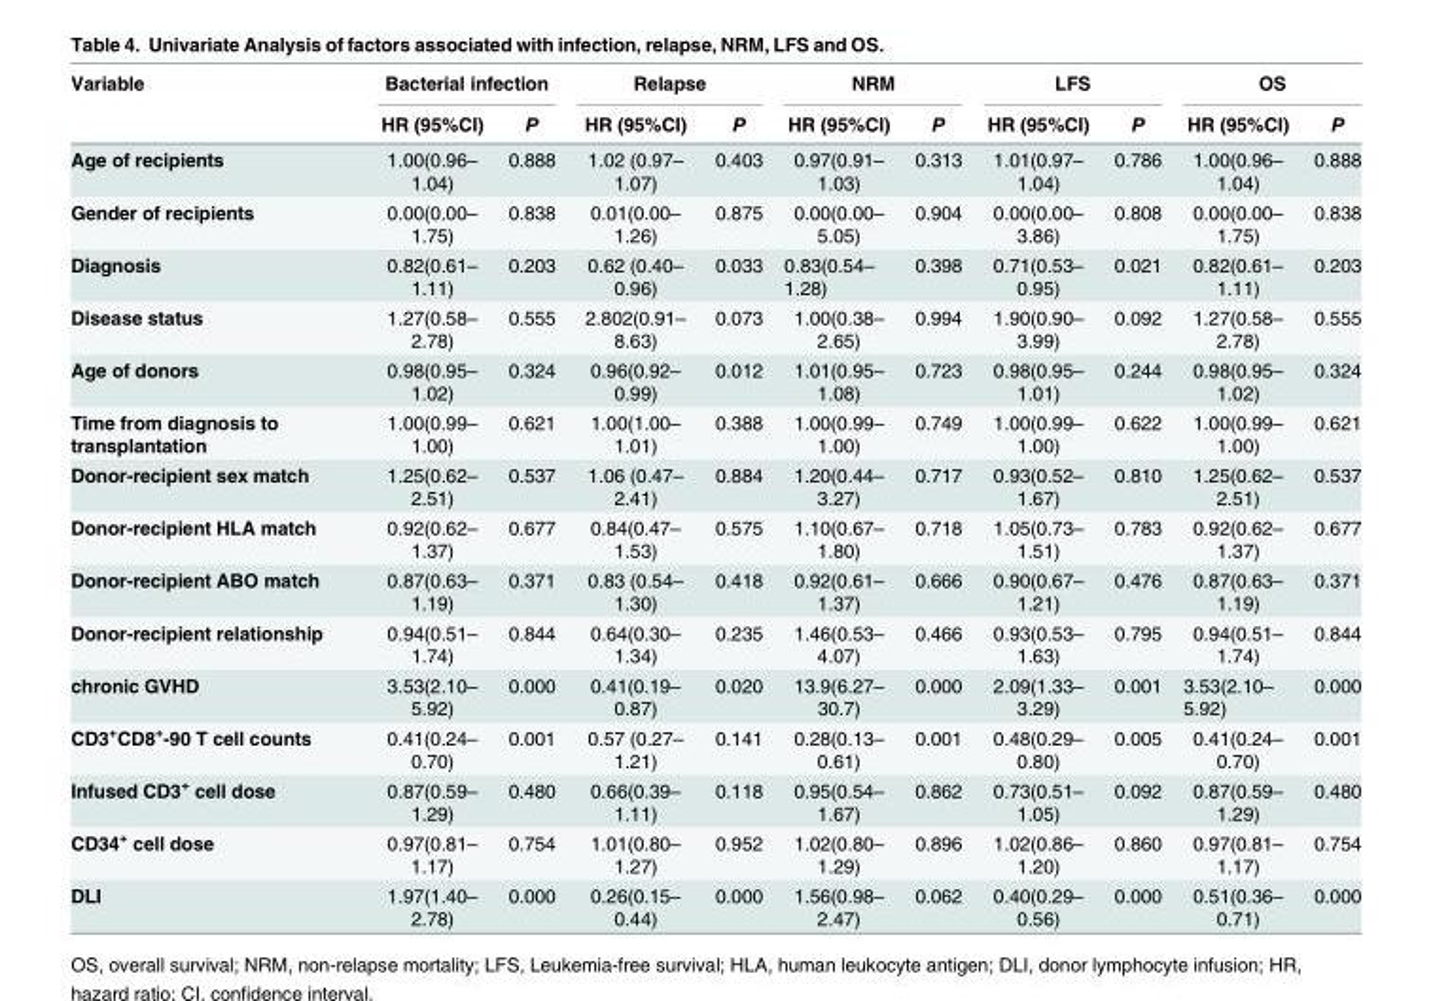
<table><thead><tr><td rowspan="2">Variable</td><td colspan="2">Bacterial infection</td><td colspan="2">Relapse</td><td colspan="2">NRM</td><td colspan="2">LFS</td><td colspan="2">OS</td></tr><tr><td>HR (95%CI)</td><td>P</td><td>HR (95%CI)</td><td>P</td><td>HR (95%CI)</td><td>P</td><td>HR (95%CI)</td><td>P</td><td>HR (95%CI)</td><td>P</td></tr></thead><tbody><tr><td>Age of recipients</td><td>1.00(0.96– 1.04)</td><td>0.888</td><td>1.02 (0.97– 1.07)</td><td>0.403</td><td>0.97(0.91– 1.03)</td><td>0.313</td><td>1.01(0.97– 1.04)</td><td>0.786</td><td>1.00(0.96– 1.04)</td><td>0.888</td></tr><tr><td>Gender of recipients</td><td>0.00(0.00– 1.75)</td><td>0.838</td><td>0.01(0.00– 1.26)</td><td>0.875</td><td>0.00(0.00– 5.05)</td><td>0.904</td><td>0.00(0.00– 3.86)</td><td>0.808</td><td>0.00(0.00– 1.75)</td><td>0.838</td></tr><tr><td>Diagnosis</td><td>0.82(0.61– 1.11)</td><td>0.203</td><td>0.62 (0.40– 0.96)</td><td>0.033</td><td>0.83(0.54– 1.28)</td><td>0.398</td><td>0.71(0.53– 0.95)</td><td>0.021</td><td>0.82(0.61– 1.11)</td><td>0.203</td></tr><tr><td>Disease status</td><td>1.27(0.58– 2.78)</td><td>0.555</td><td>2.802(0.91– 8.63)</td><td>0.073</td><td>1.00(0.38– 2.65)</td><td>0.994</td><td>1.90(0.90– 3.99)</td><td>0.092</td><td>1.27(0.58– 2.78)</td><td>0.555</td></tr><tr><td>Age of donors</td><td>0.98(0.95– 1.02)</td><td>0.324</td><td>0.96(0.92– 0.99)</td><td>0.012</td><td>1.01(0.95– 1.08)</td><td>0.723</td><td>0.98(0.95– 1.01)</td><td>0.244</td><td>0.98(0.95– 1.02)</td><td>0.324</td></tr><tr><td>Time from diagnosis to transplantation</td><td>1.00(0.99– 1.00)</td><td>0.621</td><td>1.00(1.00– 1.01)</td><td>0.388</td><td>1.00(0.99– 1.00)</td><td>0.749</td><td>1.00(0.99– 1.00)</td><td>0.622</td><td>1.00(0.99– 1.00)</td><td>0.621</td></tr><tr><td>Donor-recipient sex match</td><td>1.25(0.62– 2.51)</td><td>0.537</td><td>1.06 (0.47– 2.41)</td><td>0.884</td><td>1.20(0.44– 3.27)</td><td>0.717</td><td>0.93(0.52– 1.67)</td><td>0.810</td><td>1.25(0.62– 2.51)</td><td>0.537</td></tr><tr><td>Donor-recipient HLA match</td><td>0.92(0.62– 1.37)</td><td>0.677</td><td>0.84(0.47– 1.53)</td><td>0.575</td><td>1.10(0.67– 1.80)</td><td>0.718</td><td>1.05(0.73– 1.51)</td><td>0.783</td><td>0.92(0.62– 1.37)</td><td>0.677</td></tr><tr><td>Donor-recipient ABO match</td><td>0.87(0.63– 1.19)</td><td>0.371</td><td>0.83 (0.54– 1.30)</td><td>0.418</td><td>0.92(0.61– 1.37)</td><td>0.666</td><td>0.90(0.67– 1.21)</td><td>0.476</td><td>0.87(0.63– 1.19)</td><td>0.371</td></tr><tr><td>Donor-recipient relationship</td><td>0.94(0.51– 1.74)</td><td>0.844</td><td>0.64(0.30– 1.34)</td><td>0.235</td><td>1.46(0.53– 4.07)</td><td>0.466</td><td>0.93(0.53– 1.63)</td><td>0.795</td><td>0.94(0.51– 1.74)</td><td>0.844</td></tr><tr><td>chronic GVHD</td><td>3.53(2.10– 5.92)</td><td>0.000</td><td>0.41(0.19– 0.87)</td><td>0.020</td><td>13.9(6.27– 30.7)</td><td>0.000</td><td>2.09(1.33– 3.29)</td><td>0.001</td><td>3.53(2.10– 5.92)</td><td>0.000</td></tr><tr><td>CD3<sup>+</sup>CD8<sup>+</sup>-90 T cell counts</td><td>0.41(0.24– 0.70)</td><td>0.001</td><td>0.57 (0.27– 1.21)</td><td>0.141</td><td>0.28(0.13– 0.61)</td><td>0.001</td><td>0.48(0.29– 0.80)</td><td>0.005</td><td>0.41(0.24– 0.70)</td><td>0.001</td></tr><tr><td>Infused CD3<sup>+</sup> cell dose</td><td>0.87(0.59– 1.29)</td><td>0.480</td><td>0.66(0.39– 1.11)</td><td>0.118</td><td>0.95(0.54– 1.67)</td><td>0.862</td><td>0.73(0.51– 1.05)</td><td>0.092</td><td>0.87(0.59– 1.29)</td><td>0.480</td></tr><tr><td>CD34<sup>+</sup> cell dose</td><td>0.97(0.81– 1.17)</td><td>0.754</td><td>1.01(0.80– 1.27)</td><td>0.952</td><td>1.02(0.80– 1.29)</td><td>0.896</td><td>1.02(0.86– 1.20)</td><td>0.860</td><td>0.97(0.81– 1.17)</td><td>0.754</td></tr><tr><td>DLI</td><td>1.97(1.40– 2.78)</td><td>0.000</td><td>0.26(0.15– 0.44)</td><td>0.000</td><td>1.56(0.98– 2.47)</td><td>0.062</td><td>0.40(0.29– 0.56)</td><td>0.000</td><td>0.51(0.36– 0.71)</td><td>0.000</td></tr></tbody></table>